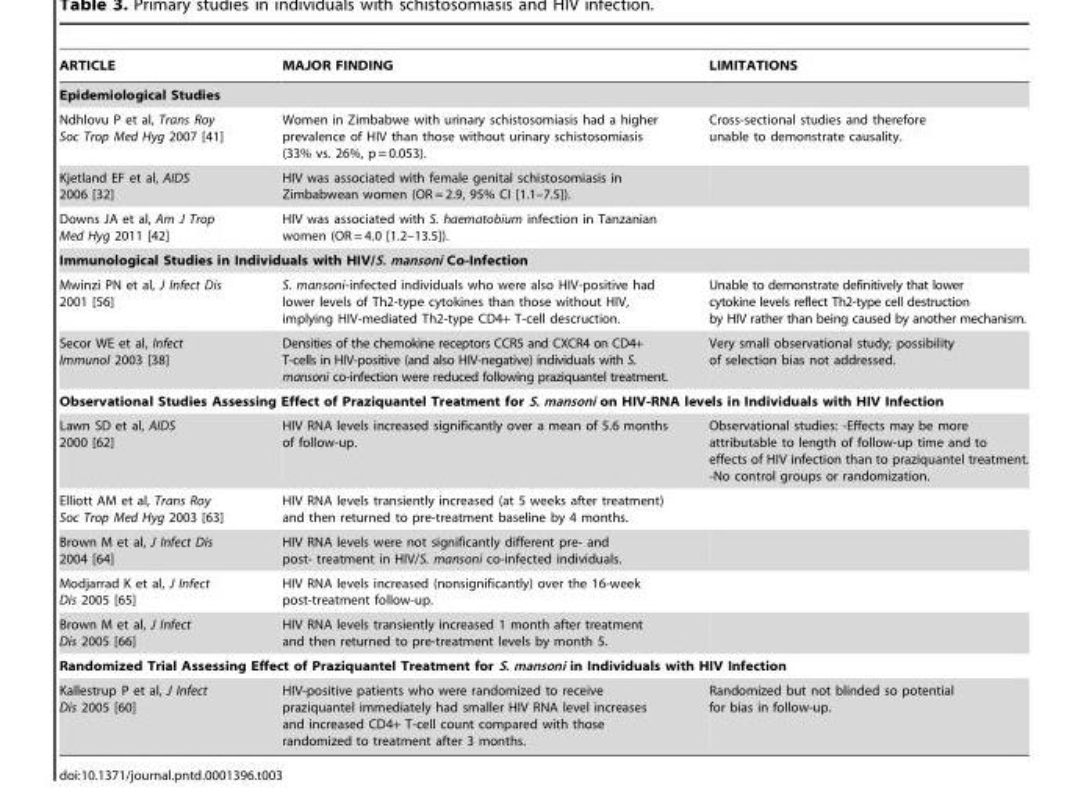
<table><thead><tr><td>ARTICLE</td><td>MAJOR FINDING</td><td>LIMITATIONS</td></tr></thead><tbody><tr><td colspan="3">Epidemiological Studies</td></tr><tr><td>Ndhlovu P et al, Trans Roy Soc Trop Med Hyg 2007 [41]</td><td>Women in Zimbabwe with urinary schistosomiasis had a higher prevalence of HIV than those without urinary schistosomiasis (33% vs. 26%, p = 0.053).</td><td>Cross-sectional studies and therefore unable to demonstrate causality.</td></tr><tr><td>Kjetland EF et al, AIDS 2006 [32]</td><td>HIV was associated with female genital schistosomiasis in Zimbabwean women (OR = 2.9, 95% CI [1.1–7.5]).</td><td></td></tr><tr><td>Downs JA et al, Am J Trop Med Hyg 2011 [42]</td><td>HIV was associated with S. haematobium infection in Tanzanian women (OR = 4.0 [1.2–13.5]).</td><td></td></tr><tr><td colspan="3">Immunological Studies in Individuals with HIV/S. mansoni Co-Infection</td></tr><tr><td>Mwinzi PN et al, J Infect Dis 2001 [56]</td><td>S. mansoni-infected individuals who were also HIV-positive had lower levels of Th2-type cytokines than those without HIV, implying HIV-mediated Th2-type CD4+ T-cell descruction.</td><td>Unable to demonstrate definitively that lower cytokine levels reflect Th2-type cell destruction by HIV rather than being caused by another mechanism.</td></tr><tr><td>Secor WE et al, Infect Immunol 2003 [38]</td><td>Densities of the chemokine receptors CCR5 and CXCR4 on CD4+ T-cells in HIV-positive (and also HIV-negative) individuals with S. mansoni co-infection were reduced following praziquantel treatment.</td><td>Very small observational study; possibility of selection bias not addressed.</td></tr><tr><td colspan="3">Observational Studies Assessing Effect of Praziquantel Treatment for S. mansoni on HIV-RNA levels in Individuals with HIV Infection</td></tr><tr><td>Lawn SD et al, AIDS 2000 [62]</td><td>HIV RNA levels increased significantly over a mean of 5.6 months of follow-up.</td><td>Observational studies: -Effects may be more attributable to length of follow-up time and to effects of HIV infection than to praziquantel treatment. -No control groups or randomization.</td></tr><tr><td>Elliott AM et al, Trans Roy Soc Trop Med Hyg 2003 [63]</td><td>HIV RNA levels transiently increased (at 5 weeks after treatment) and then returned to pre-treatment baseline by 4 months.</td><td></td></tr><tr><td>Brown M et al, J Infect Dis 2004 [64]</td><td>HIV RNA levels were not significantly different pre- and post- treatment in HIV/S. mansoni co-infected individuals.</td><td></td></tr><tr><td>Modjarrad K et al, J Infect Dis 2005 [65]</td><td>HIV RNA levels increased (nonsignificantly) over the 16-week post-treatment follow-up.</td><td></td></tr><tr><td>Brown M et al, J Infect Dis 2005 [66]</td><td>HIV RNA levels transiently increased 1 month after treatment and then returned to pre-treatment levels by month 5.</td><td></td></tr><tr><td colspan="3">Randomized Trial Assessing Effect of Praziquantel Treatment for S. mansoni in Individuals with HIV Infection</td></tr><tr><td>Kallestrup P et al, J Infect Dis 2005 [60]</td><td>HIV-positive patients who were randomized to receive praziquantel immediately had smaller HIV RNA level increases and increased CD4+ T-cell count compared with those randomized to treatment after 3 months.</td><td>Randomized but not blinded so potential for bias in follow-up.</td></tr></tbody></table>